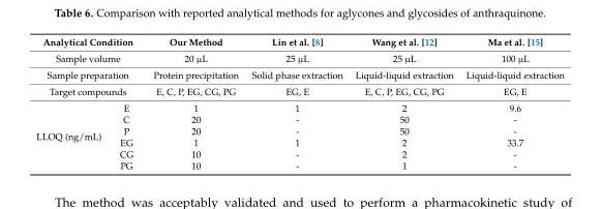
<table><thead><tr><td colspan="2">Analytical Condition</td><td>Our Method</td><td>Lin et al. [8]</td><td>Wang et al. [12]</td><td>Ma et al. [15]</td></tr></thead><tbody><tr><td colspan="2">Sample volume</td><td>20 µL</td><td>25 µL</td><td>25 µL</td><td>100 µL</td></tr><tr><td colspan="2">Sample preparation</td><td>Protein precipitation</td><td>Solid phase extraction</td><td>Liquid-liquid extraction</td><td>Liquid-liquid extraction</td></tr><tr><td colspan="2">Target compounds</td><td>E, C, P, EG, CG, PG</td><td>EG, E</td><td>E, C, P, EG, CG, PG</td><td>EG, E</td></tr><tr><td rowspan="6">LLOQ (ng/mL)</td><td>E</td><td>1</td><td>1</td><td>2</td><td>9.6</td></tr><tr><td>C</td><td>20</td><td>-</td><td>50</td><td>-</td></tr><tr><td>P</td><td>20</td><td>-</td><td>50</td><td>-</td></tr><tr><td>EG</td><td>1</td><td>1</td><td>2</td><td>33.7</td></tr><tr><td>CG</td><td>10</td><td>-</td><td>2</td><td>-</td></tr><tr><td>PG</td><td>10</td><td>-</td><td>1</td><td>-</td></tr></tbody></table>